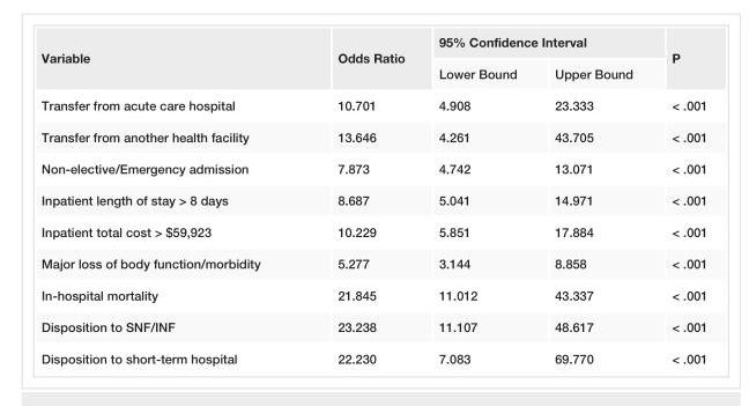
<table><tbody><tr><td rowspan="2">Variable</td><td rowspan="2">Odds Ratio</td><td colspan="2">95% Confidence Interval</td><td rowspan="2">P</td></tr><tr><td>Lower Bound</td><td>Upper Bound</td></tr><tr><td>Transfer from acute care hospital</td><td>10.701</td><td>4.908</td><td>23.333</td><td>&lt; .001</td></tr><tr><td>Transfer from another health facility</td><td>13.646</td><td>4.261</td><td>43.705</td><td>&lt; .001</td></tr><tr><td>Non-elective/Emergency admission</td><td>7.873</td><td>4.742</td><td>13.071</td><td>&lt; .001</td></tr><tr><td>Inpatient length of stay &gt; 8 days</td><td>8.687</td><td>5.041</td><td>14.971</td><td>&lt; .001</td></tr><tr><td>Inpatient total cost &gt; $59,923</td><td>10.229</td><td>5.851</td><td>17.884</td><td>&lt; .001</td></tr><tr><td>Major loss of body function/morbidity</td><td>5.277</td><td>3.144</td><td>8.858</td><td>&lt; .001</td></tr><tr><td>In-hospital mortality</td><td>21.845</td><td>11.012</td><td>43.337</td><td>&lt; .001</td></tr><tr><td>Disposition to SNF/INF</td><td>23.238</td><td>11.107</td><td>48.617</td><td>&lt; .001</td></tr><tr><td>Disposition to short-term hospital</td><td>22.230</td><td>7.083</td><td>69.770</td><td>&lt; .001</td></tr></tbody></table>